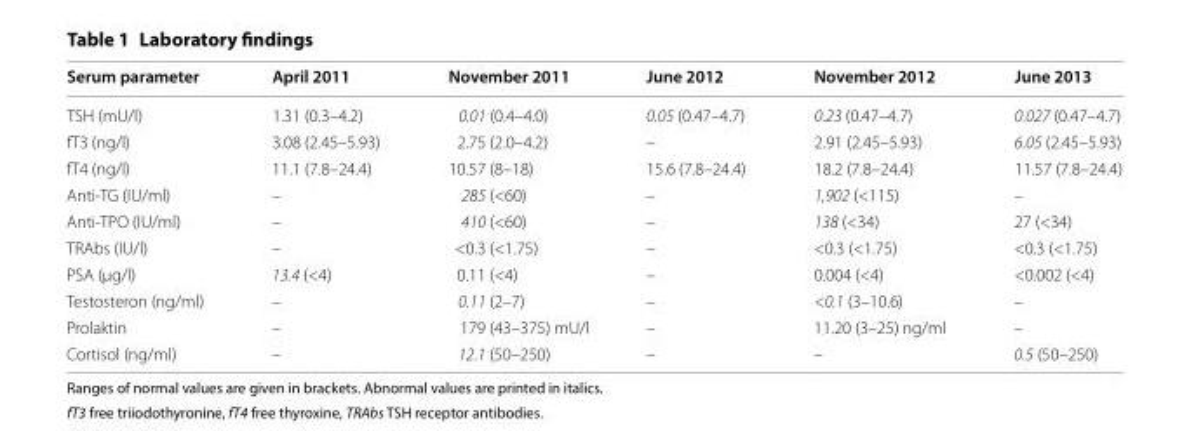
<table><thead><tr><td>Serum parameter</td><td>April 2011</td><td>November 2011</td><td>June 2012</td><td>November 2012</td><td>June 2013</td></tr></thead><tbody><tr><td>TSH (mU/l)</td><td>1.31 (0.3–4.2)</td><td>0.01 (0.4–4.0)</td><td>0.05 (0.47–4.7)</td><td>0.23 (0.47–4.7)</td><td>0.027 (0.47–4.7)</td></tr><tr><td>fT3 (ng/l)</td><td>3.08 (2.45–5.93)</td><td>2.75 (2.0–4.2)</td><td>–</td><td>2.91 (2.45–5.93)</td><td>6.05 (2.45–5.93)</td></tr><tr><td>fT4 (ng/l)</td><td>11.1 (7.8–24.4)</td><td>10.57 (8–18)</td><td>15.6 (7.8–24.4)</td><td>18.2 (7.8–24.4)</td><td>11.57 (7.8–24.4)</td></tr><tr><td>Anti-TG (IU/ml)</td><td>–</td><td>285 (&lt;60)</td><td>–</td><td>1,902 (&lt;115)</td><td>–</td></tr><tr><td>Anti-TPO (IU/ml)</td><td>–</td><td>410 (&lt;60)</td><td>–</td><td>138 (&lt;34)</td><td>27 (&lt;34)</td></tr><tr><td>TRAbs (IU/l)</td><td>–</td><td>&lt;0.3 (&lt;1.75)</td><td>–</td><td>&lt;0.3 (&lt;1.75)</td><td>&lt;0.3 (&lt;1.75)</td></tr><tr><td>PSA (µg/l)</td><td>13.4 (&lt;4)</td><td>0.11 (&lt;4)</td><td>–</td><td>0.004 (&lt;4)</td><td>&lt;0.002 (&lt;4)</td></tr><tr><td>Testosteron (ng/ml)</td><td>–</td><td>0.11 (2–7)</td><td>–</td><td>&lt;0.1 (3–10.6)</td><td>–</td></tr><tr><td>Prolaktin</td><td>–</td><td>179 (43–375) mU/l</td><td>–</td><td>11.20 (3–25) ng/ml</td><td>–</td></tr><tr><td>Cortisol (ng/ml)</td><td>–</td><td>12.1 (50–250)</td><td>–</td><td>–</td><td>0.5 (50–250)</td></tr></tbody></table>